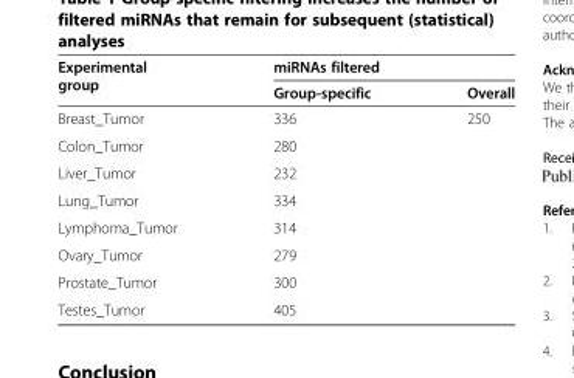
<table><thead><tr><td rowspan="2">Experimental group</td><td colspan="2">miRNAs filtered</td></tr><tr><td>Group-specific</td><td>Overall</td></tr></thead><tbody><tr><td>Breast_Tumor</td><td>336</td><td rowspan="8">250</td></tr><tr><td>Colon_Tumor</td><td>280</td></tr><tr><td>Liver_Tumor</td><td>232</td></tr><tr><td>Lung_Tumor</td><td>334</td></tr><tr><td>Lymphoma_Tumor</td><td>314</td></tr><tr><td>Ovary_Tumor</td><td>279</td></tr><tr><td>Prostate_Tumor</td><td>300</td></tr><tr><td>Testes_Tumor</td><td>405</td></tr></tbody></table>